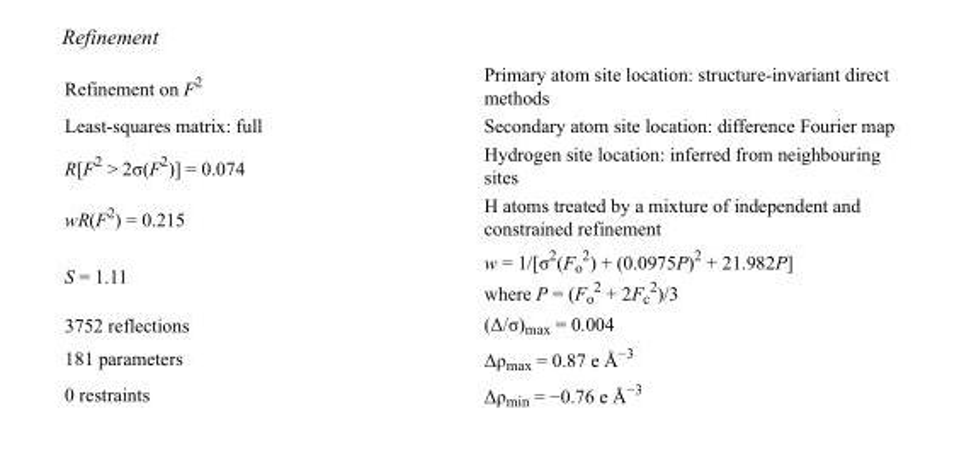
<table><tbody><tr><td>Refinement on F<sup>2</sup></td><td>Primary atom site location: structure-invariant direct methods</td></tr><tr><td>Least-squares matrix: full</td><td>Secondary atom site location: difference Fourier map</td></tr><tr><td>R[F<sup>2</sup> &gt; 2σ(F<sup>2</sup>)] = 0.074</td><td>Hydrogen site location: inferred from neighbouring sites</td></tr><tr><td>wR(F<sup>2</sup>) = 0.215</td><td>H atoms treated by a mixture of independent and constrained refinement</td></tr><tr><td>S = 1.11</td><td>w = 1/[σ<sup>2</sup>(F<sub>o</sub> <sup>2</sup>) + (0.0975P)<sup>2</sup> + 21.982P] where P = (F<sub>o</sub> <sup>2</sup> + 2F<sub>c</sub> <sup>2</sup>)/3</td></tr><tr><td>3752 reflections</td><td>(Δ/σ)<sub>max</sub> = 0.004</td></tr><tr><td>181 parameters</td><td>Δρ<sub>max</sub> = 0.87 e Å<sup>−3</sup></td></tr><tr><td>0 restraints</td><td>Δρ<sub>min</sub> = −0.76 e Å<sup>−3</sup></td></tr></tbody></table>